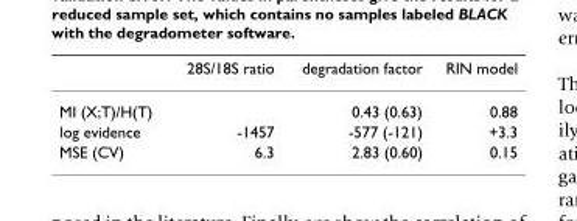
<table><thead><tr><td></td><td>28S/18S ratio</td><td>degradation factor</td><td>RIN model</td></tr></thead><tbody><tr><td>MI (X;T)/H(T)</td><td></td><td>0.43 (0.63)</td><td>0.88</td></tr><tr><td>log evidence</td><td>-1457</td><td>-577 (-121)</td><td>+3.3</td></tr><tr><td>MSE (CV)</td><td>6.3</td><td>2.83 (0.60)</td><td>0.15</td></tr></tbody></table>